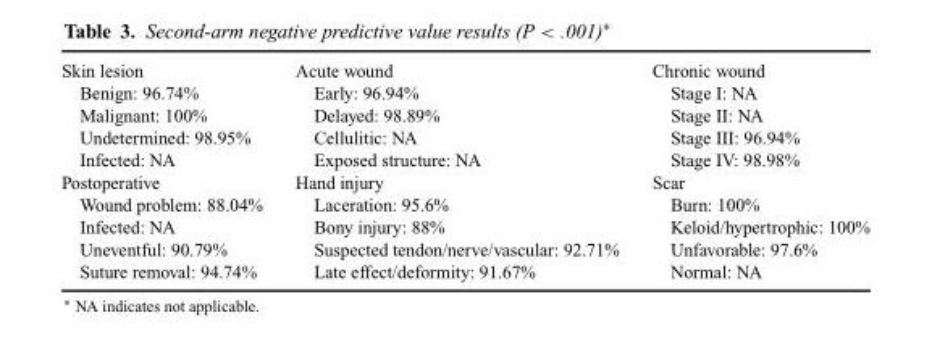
<table><tbody><tr><td>Skin lesion</td><td>Acute wound</td><td>Chronic wound</td></tr><tr><td>Benign: 96.74%</td><td>Early: 96.94%</td><td>Stage I: NA</td></tr><tr><td>Malignant: 100%</td><td>Delayed: 98.89%</td><td>Stage II: NA</td></tr><tr><td>Undetermined: 98.95%</td><td>Cellulitic: NA</td><td>Stage III: 96.94%</td></tr><tr><td>Infected: NA</td><td>Exposed structure: NA</td><td>Stage IV: 98.98%</td></tr><tr><td>Postoperative</td><td>Hand injury</td><td>Scar</td></tr><tr><td>Wound problem: 88.04%</td><td>Laceration: 95.6%</td><td>Burn: 100%</td></tr><tr><td>Infected: NA</td><td>Bony injury: 88%</td><td>Keloid/hypertrophic: 100%</td></tr><tr><td>Uneventful: 90.79%</td><td>Suspected tendon/nerve/vascular: 92.71%</td><td>Unfavorable: 97.6%</td></tr><tr><td>Suture removal: 94.74%</td><td>Late effect/deformity: 91.67%</td><td>Normal: NA</td></tr></tbody></table>